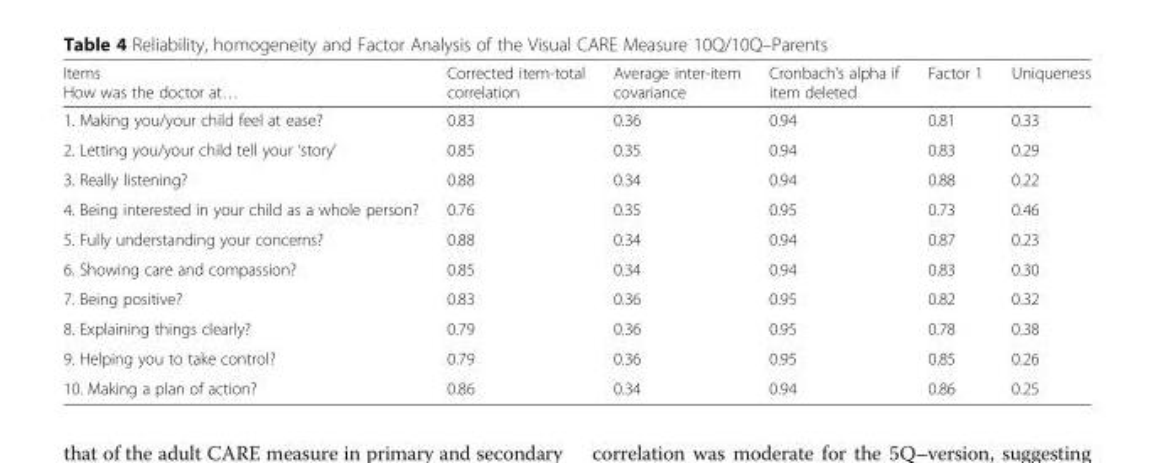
<table><thead><tr><td>Items How was the doctor at…</td><td>Corrected item-total correlation</td><td>Average inter-item covariance</td><td>Cronbach’s alpha if item deleted</td><td>Factor 1</td><td>Uniqueness</td></tr></thead><tbody><tr><td>1. Making you/your child feel at ease?</td><td>0.83</td><td>0.36</td><td>0.94</td><td>0.81</td><td>0.33</td></tr><tr><td>2. Letting you/your child tell your ‘story’</td><td>0.85</td><td>0.35</td><td>0.94</td><td>0.83</td><td>0.29</td></tr><tr><td>3. Really listening?</td><td>0.88</td><td>0.34</td><td>0.94</td><td>0.88</td><td>0.22</td></tr><tr><td>4. Being interested in your child as a whole person?</td><td>0.76</td><td>0.35</td><td>0.95</td><td>0.73</td><td>0.46</td></tr><tr><td>5. Fully understanding your concerns?</td><td>0.88</td><td>0.34</td><td>0.94</td><td>0.87</td><td>0.23</td></tr><tr><td>6. Showing care and compassion?</td><td>0.85</td><td>0.34</td><td>0.94</td><td>0.83</td><td>0.30</td></tr><tr><td>7. Being positive?</td><td>0.83</td><td>0.36</td><td>0.95</td><td>0.82</td><td>0.32</td></tr><tr><td>8. Explaining things clearly?</td><td>0.79</td><td>0.36</td><td>0.95</td><td>0.78</td><td>0.38</td></tr><tr><td>9. Helping you to take control?</td><td>0.79</td><td>0.36</td><td>0.95</td><td>0.85</td><td>0.26</td></tr><tr><td>10. Making a plan of action?</td><td>0.86</td><td>0.34</td><td>0.94</td><td>0.86</td><td>0.25</td></tr></tbody></table>